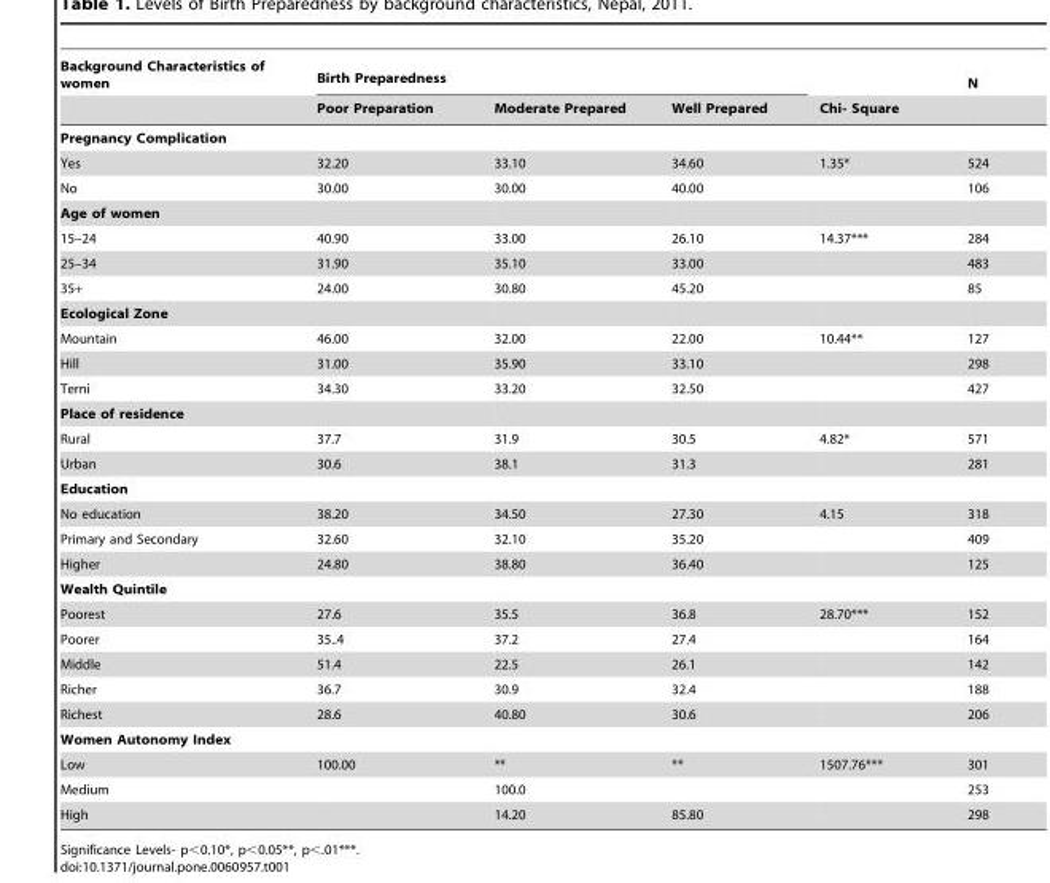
<table><thead><tr><td rowspan="2">Background Characteristics of women</td><td colspan="3">Birth Preparedness</td><td rowspan="2">Chi- Square</td><td rowspan="2">N</td></tr><tr><td>Poor Preparation</td><td>Moderate Prepared</td><td>Well Prepared</td></tr></thead><tbody><tr><td colspan="6">Pregnancy Complication</td></tr><tr><td>Yes</td><td>32.20</td><td>33.10</td><td>34.60</td><td>1.35*</td><td>524</td></tr><tr><td>No</td><td>30.00</td><td>30.00</td><td>40.00</td><td></td><td>106</td></tr><tr><td colspan="6">Age of women</td></tr><tr><td>15–24</td><td>40.90</td><td>33.00</td><td>26.10</td><td>14.37***</td><td>284</td></tr><tr><td>25–34</td><td>31.90</td><td>35.10</td><td>33.00</td><td></td><td>483</td></tr><tr><td>35+</td><td>24.00</td><td>30.80</td><td>45.20</td><td></td><td>85</td></tr><tr><td colspan="6">Ecological Zone</td></tr><tr><td>Mountain</td><td>46.00</td><td>32.00</td><td>22.00</td><td>10.44**</td><td>127</td></tr><tr><td>Hill</td><td>31.00</td><td>35.90</td><td>33.10</td><td></td><td>298</td></tr><tr><td>Terni</td><td>34.30</td><td>33.20</td><td>32.50</td><td></td><td>427</td></tr><tr><td colspan="6">Place of residence</td></tr><tr><td>Rural</td><td>37.7</td><td>31.9</td><td>30.5</td><td>4.82*</td><td>571</td></tr><tr><td>Urban</td><td>30.6</td><td>38.1</td><td>31.3</td><td></td><td>281</td></tr><tr><td colspan="6">Education</td></tr><tr><td>No education</td><td>38.20</td><td>34.50</td><td>27.30</td><td>4.15</td><td>318</td></tr><tr><td>Primary and Secondary</td><td>32.60</td><td>32.10</td><td>35.20</td><td></td><td>409</td></tr><tr><td>Higher</td><td>24.80</td><td>38.80</td><td>36.40</td><td></td><td>125</td></tr><tr><td colspan="6">Wealth Quintile</td></tr><tr><td>Poorest</td><td>27.6</td><td>35.5</td><td>36.8</td><td>28.70***</td><td>152</td></tr><tr><td>Poorer</td><td>35..4</td><td>37.2</td><td>27.4</td><td></td><td>164</td></tr><tr><td>Middle</td><td>51.4</td><td>22.5</td><td>26.1</td><td></td><td>142</td></tr><tr><td>Richer</td><td>36.7</td><td>30.9</td><td>32.4</td><td></td><td>188</td></tr><tr><td>Richest</td><td>28.6</td><td>40.80</td><td>30.6</td><td></td><td>206</td></tr><tr><td colspan="6">Women Autonomy Index</td></tr><tr><td>Low</td><td>100.00</td><td>**</td><td>**</td><td>1507.76***</td><td>301</td></tr><tr><td>Medium</td><td></td><td>100.0</td><td></td><td></td><td>253</td></tr><tr><td>High</td><td></td><td>14.20</td><td>85.80</td><td></td><td>298</td></tr></tbody></table>